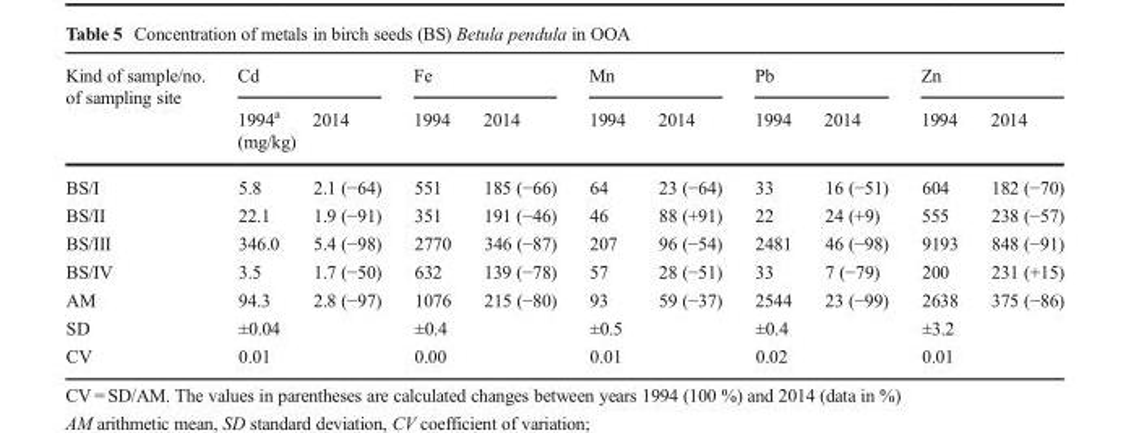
<table><thead><tr><td rowspan="3">Kind of sample/no. of sampling site</td><td colspan="2">Cd</td><td colspan="2">Fe</td><td colspan="2">Mn</td><td colspan="2">Pb</td><td colspan="2">Zn</td></tr><tr><td>1994<sup>a</sup></td><td>2014</td><td>1994</td><td>2014</td><td>1994</td><td>2014</td><td>1994</td><td>2014</td><td>1994</td><td>2014</td></tr><tr><td colspan="10">(mg/kg)</td></tr></thead><tbody><tr><td>BS/I</td><td>5.8</td><td>2.1 (−64)</td><td>551</td><td>185 (−66)</td><td>64</td><td>23 (−64)</td><td>33</td><td>16 (−51)</td><td>604</td><td>182 (−70)</td></tr><tr><td>BS/II</td><td>22.1</td><td>1.9 (−91)</td><td>351</td><td>191 (−46)</td><td>46</td><td>88 (+91)</td><td>22</td><td>24 (+9)</td><td>555</td><td>238 (−57)</td></tr><tr><td>BS/III</td><td>346.0</td><td>5.4 (−98)</td><td>2770</td><td>346 (−87)</td><td>207</td><td>96 (−54)</td><td>2481</td><td>46 (−98)</td><td>9193</td><td>848 (−91)</td></tr><tr><td>BS/IV</td><td>3.5</td><td>1.7 (−50)</td><td>632</td><td>139 (−78)</td><td>57</td><td>28 (−51)</td><td>33</td><td>7 (−79)</td><td>200</td><td>231 (+15)</td></tr><tr><td>AM</td><td>94.3</td><td>2.8 (−97)</td><td>1076</td><td>215 (−80)</td><td>93</td><td>59 (−37)</td><td>2544</td><td>23 (−99)</td><td>2638</td><td>375 (−86)</td></tr><tr><td>SD</td><td colspan="2">±0.04</td><td colspan="2">±0.4</td><td colspan="2">±0.5</td><td colspan="2">±0.4</td><td colspan="2">±3.2</td></tr><tr><td>CV</td><td colspan="2">0.01</td><td colspan="2">0.00</td><td colspan="2">0.01</td><td colspan="2">0.02</td><td colspan="2">0.01</td></tr></tbody></table>